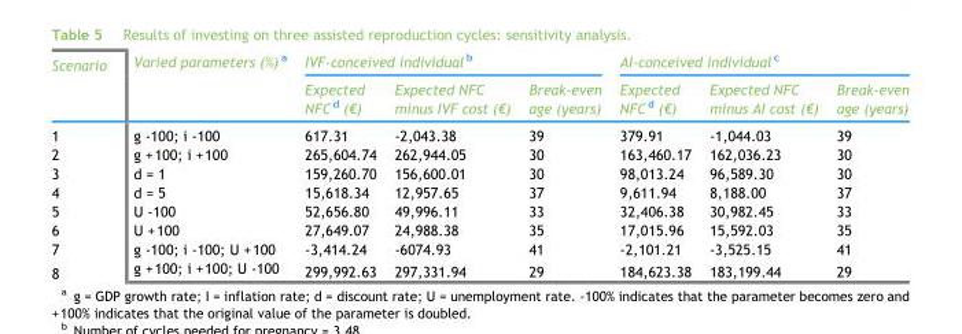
<table><thead><tr><td rowspan="2">Scenario</td><td rowspan="2">Varied parameters (%) <sup>a</sup></td><td colspan="3">IVF-conceived individual <sup>b</sup></td><td colspan="3">AI-conceived individual <sup>c</sup></td></tr><tr><td>Expected NFC <sup>d</sup> (€)</td><td>Expected NFC minus IVF cost (€)</td><td>Break-even age (years)</td><td>Expected NFC <sup>d</sup> (€)</td><td>Expected NFC minus AI cost (€)</td><td>Break-even age (years)</td></tr></thead><tbody><tr><td>1</td><td>g -100; i -100</td><td>617.31</td><td>-2,043.38</td><td>39</td><td>379.91</td><td>-1,044.03</td><td>39</td></tr><tr><td>2</td><td>g +100; i +100</td><td>265,604.74</td><td>262,944.05</td><td>30</td><td>163,460.17</td><td>162,036.23</td><td>30</td></tr><tr><td>3</td><td>d = 1</td><td>159,260.70</td><td>156,600.01</td><td>30</td><td>98,013.24</td><td>96,589.30</td><td>30</td></tr><tr><td>4</td><td>d = 5</td><td>15,618.34</td><td>12,957.65</td><td>37</td><td>9,611.94</td><td>8,188.00</td><td>37</td></tr><tr><td>5</td><td>U -100</td><td>52,656.80</td><td>49,996.11</td><td>33</td><td>32,406.38</td><td>30,982.45</td><td>33</td></tr><tr><td>6</td><td>U +100</td><td>27,649.07</td><td>24,988.38</td><td>35</td><td>17,015.96</td><td>15,592.03</td><td>35</td></tr><tr><td>7</td><td>g -100; i -100; U +100</td><td>-3,414.24</td><td>-6074.93</td><td>41</td><td>-2,101.21</td><td>-3,525.15</td><td>41</td></tr><tr><td>8</td><td>g +100; i +100; U -100</td><td>299,992.63</td><td>297,331.94</td><td>29</td><td>184,623.38</td><td>183,199.44</td><td>29</td></tr></tbody></table>